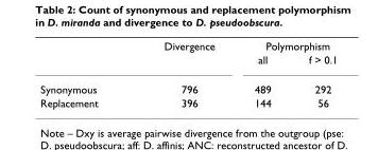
<table><thead><tr><td rowspan="2"></td><td rowspan="2">Divergence</td><td colspan="2">Polymorphism</td></tr><tr><td>all</td><td>f &gt; 0.1</td></tr></thead><tbody><tr><td>Synonymous</td><td>796</td><td>489</td><td>292</td></tr><tr><td>Replacement</td><td>396</td><td>144</td><td>56</td></tr></tbody></table>